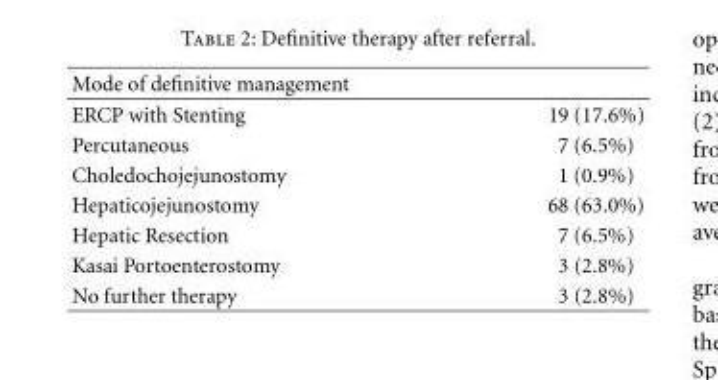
<table><thead><tr><td>Mode of definitive management</td><td></td></tr></thead><tbody><tr><td>ERCP with Stenting</td><td>19 (17.6%)</td></tr><tr><td>Percutaneous</td><td>7 (6.5%)</td></tr><tr><td>Choledochojejunostomy</td><td>1 (0.9%)</td></tr><tr><td>Hepaticojejunostomy</td><td>68 (63.0%)</td></tr><tr><td>Hepatic Resection</td><td>7 (6.5%)</td></tr><tr><td>Kasai Portoenterostomy</td><td>3 (2.8%)</td></tr><tr><td>No further therapy</td><td>3 (2.8%)</td></tr></tbody></table>